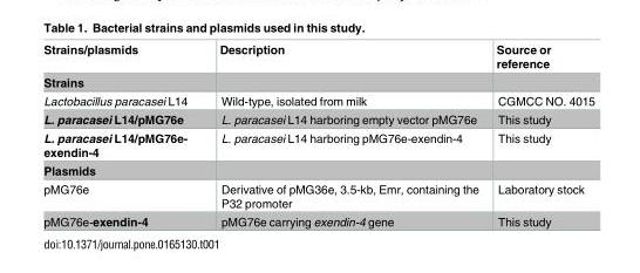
<table><thead><tr><td>Strains/plasmids</td><td>Description</td><td>Source or reference</td></tr></thead><tbody><tr><td colspan="3">Strains</td></tr><tr><td>Lactobacillus paracasei L14</td><td>Wild-type, isolated from milk</td><td>CGMCC NO. 4015</td></tr><tr><td>L. paracasei L14/pMG76e</td><td>L. paracasei L14 harboring empty vector pMG76e</td><td>This study</td></tr><tr><td>L. paracasei L14/pMG76e- exendin-4</td><td>L. paracasei L14 harboring pMG76e-exendin-4</td><td>This study</td></tr><tr><td colspan="3">Plasmids</td></tr><tr><td>pMG76e</td><td>Derivative of pMG36e, 3.5-kb, Emr, containing the P32 promoter</td><td>Laboratory stock</td></tr><tr><td>pMG76e-exendin-4</td><td>pMG76e carrying exendin-4 gene</td><td>This study</td></tr></tbody></table>